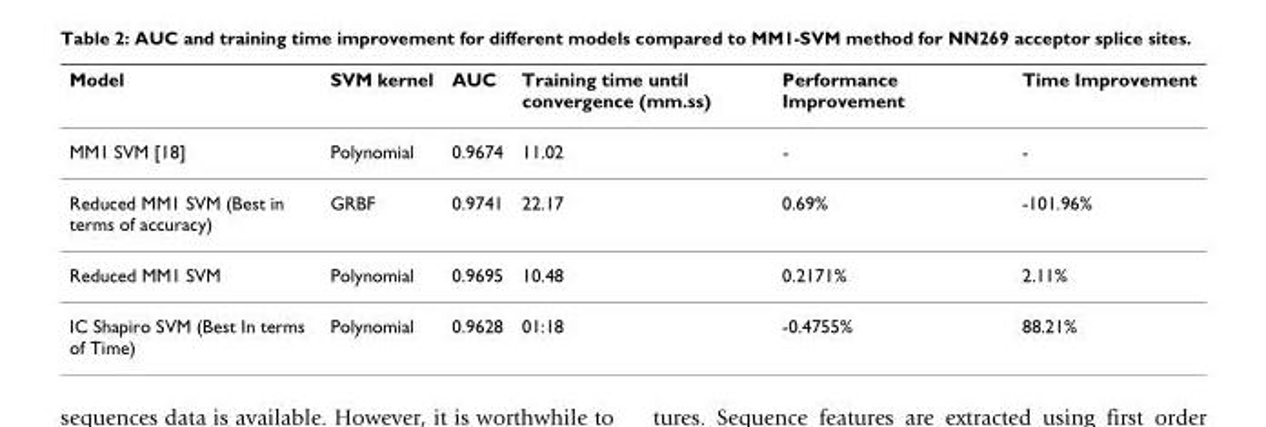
<table><thead><tr><td>Model</td><td>SVM kernel</td><td>AUC</td><td>Training time until convergence (mm.ss)</td><td>Performance Improvement</td><td>Time Improvement</td></tr></thead><tbody><tr><td>MM1 SVM [18]</td><td>Polynomial</td><td>0.9674</td><td>11.02</td><td>-</td><td>-</td></tr><tr><td>Reduced MM1 SVM (Best in terms of accuracy)</td><td>GRBF</td><td>0.9741</td><td>22.17</td><td>0.69%</td><td>-101.96%</td></tr><tr><td>Reduced MM1 SVM</td><td>Polynomial</td><td>0.9695</td><td>10.48</td><td>0.2171%</td><td>2.11%</td></tr><tr><td>IC Shapiro SVM (Best In terms of Time)</td><td>Polynomial</td><td>0.9628</td><td>01:18</td><td>-0.4755%</td><td>88.21%</td></tr></tbody></table>